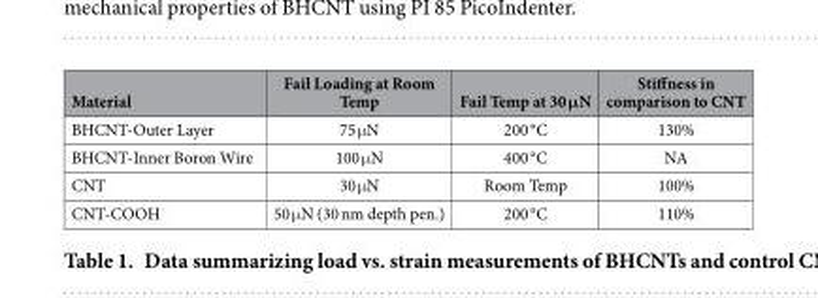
<table><thead><tr><td>Material</td><td>Fail Loading at Room Temp</td><td>Fail Temp at 30 μN</td><td>Stiffness in comparison to CNT</td></tr></thead><tbody><tr><td>BHCNT-Outer Layer</td><td>75 μ N</td><td>200 °C</td><td>130%</td></tr><tr><td>BHCNT-Inner Boron Wire</td><td>100 μ N</td><td>400 °C</td><td>NA</td></tr><tr><td>CNT</td><td>30 μ N</td><td>Room Temp</td><td>100%</td></tr><tr><td>CNT-COOH</td><td>50 μ N (30 nm depth pen.)</td><td>200 °C</td><td>110%</td></tr></tbody></table>